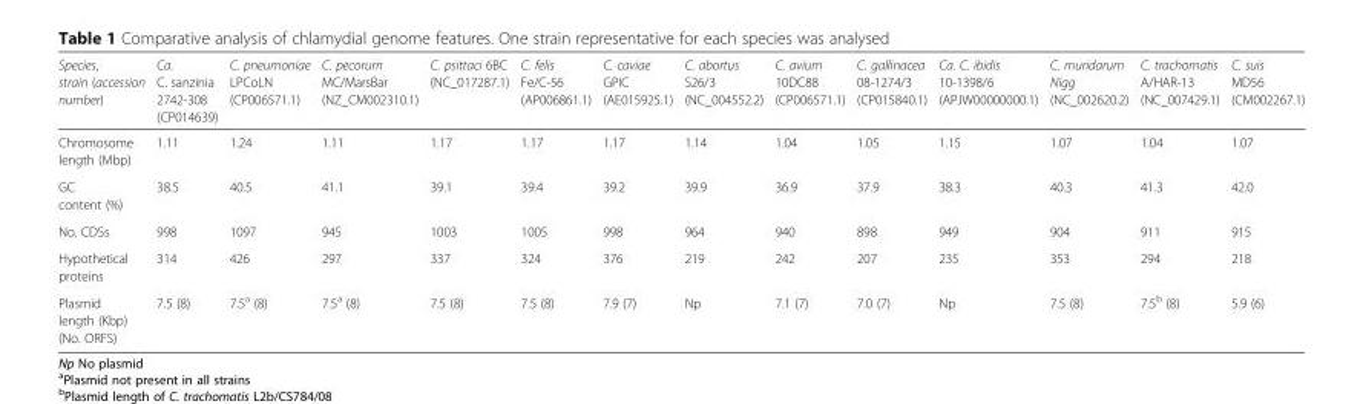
<table><thead><tr><td>Species, strain (accession number)</td><td>Ca. C. sanzinia 2742-308 (CP014639)</td><td>C. pneumoniae LPCoLN (CP006571.1)</td><td>C. pecorum MC/MarsBar (NZ_CM002310.1)</td><td>C. psittaci 6BC (NC_017287.1)</td><td>C. felis Fe/C-56 (AP006861.1)</td><td>C. caviae GPIC (AE015925.1)</td><td>C. abortus S26/3 (NC_004552.2)</td><td>C. avium 10DC88 (CP006571.1)</td><td>C. gallinacea 08-1274/3 (CP015840.1)</td><td>Ca. C. ibidis 10-1398/6 (APJW00000000.1)</td><td>C. muridarum Nigg (NC_002620.2)</td><td>C. trachomatis A/HAR-13 (NC_007429.1)</td><td>C. suis MD56 (CM002267.1)</td></tr></thead><tbody><tr><td>Chromosome length (Mbp)</td><td>1.11</td><td>1.24</td><td>1.11</td><td>1.17</td><td>1.17</td><td>1.17</td><td>1.14</td><td>1.04</td><td>1.05</td><td>1.15</td><td>1.07</td><td>1.04</td><td>1.07</td></tr><tr><td>GC content (%)</td><td>38.5</td><td>40.5</td><td>41.1</td><td>39.1</td><td>39.4</td><td>39.2</td><td>39.9</td><td>36.9</td><td>37.9</td><td>38.3</td><td>40.3</td><td>41.3</td><td>42.0</td></tr><tr><td>No. CDSs</td><td>998</td><td>1097</td><td>945</td><td>1003</td><td>1005</td><td>998</td><td>964</td><td>940</td><td>898</td><td>949</td><td>904</td><td>911</td><td>915</td></tr><tr><td>Hypothetical proteins</td><td>314</td><td>426</td><td>297</td><td>337</td><td>324</td><td>376</td><td>219</td><td>242</td><td>207</td><td>235</td><td>353</td><td>294</td><td>218</td></tr><tr><td>Plasmid length (Kbp) (No. ORFS)</td><td>7.5 (8)</td><td>7.5<sup>a</sup> (8)</td><td>7.5<sup>a</sup> (8)</td><td>7.5 (8)</td><td>7.5 (8)</td><td>7.9 (7)</td><td>Np</td><td>7.1 (7)</td><td>7.0 (7)</td><td>Np</td><td>7.5 (8)</td><td>7.5<sup>b</sup> (8)</td><td>5.9 (6)</td></tr></tbody></table>